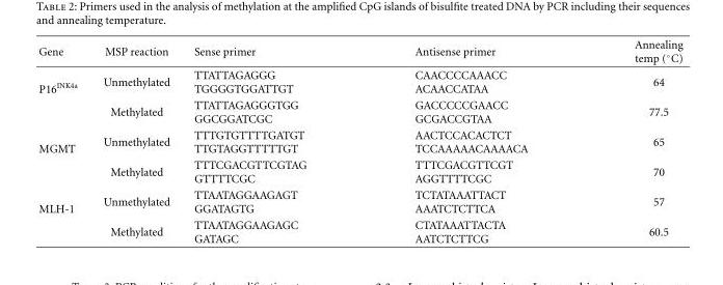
<table><thead><tr><td>Gene</td><td>MSP reaction</td><td>Sense primer</td><td>Antisense primer</td><td>Annealing temp (◦C)</td></tr></thead><tbody><tr><td rowspan="2">P16<sup>INK4a</sup></td><td>Unmethylated</td><td>TTATTAGAGGG TGGGGTGGATTGT</td><td>CAACCCCAAACC ACAACCATAA</td><td>64</td></tr><tr><td>Methylated</td><td>TTATTAGAGGGTGG GGCGGATCGC</td><td>GACCCCCGAACC GCGACCGTAA</td><td>77.5</td></tr><tr><td rowspan="2">MGMT</td><td>Unmethylated</td><td>TTTGTGTTTTGATGT TTGTAGGTTTTTGT</td><td>AACTCCACACTCT TCCAAAAACAAAACA</td><td>65</td></tr><tr><td>Methylated</td><td>TTTCGACGTTCGTAG GTTTTCGC</td><td>TTTCGACGTTCGT AGGTTTTCGC</td><td>70</td></tr><tr><td rowspan="2">MLH-1</td><td>Unmethylated</td><td>TTAATAGGAAGAGT GGATAGTG</td><td>TCTATAAATTACT AAATCTCTTCA</td><td>57</td></tr><tr><td>Methylated</td><td>TTAATAGGAAGAGC GATAGC</td><td>CTATAAATTACTA AATCTCTTCG</td><td>60.5</td></tr></tbody></table>